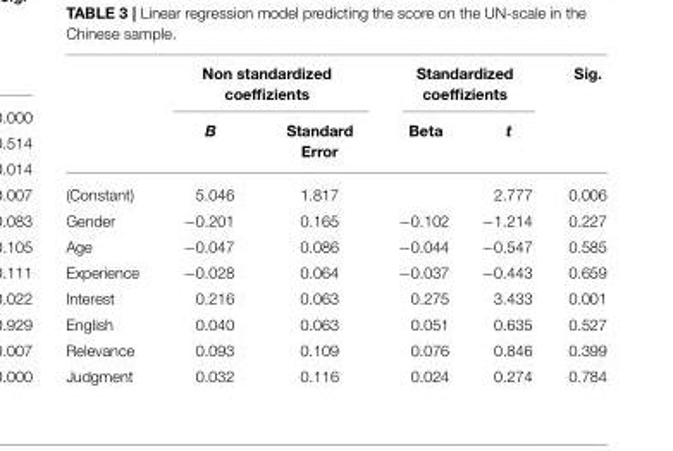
<table><thead><tr><td rowspan="2"></td><td colspan="2">Non standardized coeffizients</td><td colspan="2">Standardized coeffizients</td><td rowspan="2">Sig.</td></tr><tr><td>B</td><td>Standard Error</td><td>Beta</td><td>t</td></tr></thead><tbody><tr><td>(Constant)</td><td>5.046</td><td>1.817</td><td></td><td>2.777</td><td>0.006</td></tr><tr><td>Gender</td><td>−0.201</td><td>0.165</td><td>−0.102</td><td>−1.214</td><td>0.227</td></tr><tr><td>Age</td><td>−0.047</td><td>0.086</td><td>−0.044</td><td>−0.547</td><td>0.585</td></tr><tr><td>Experience</td><td>−0.028</td><td>0.064</td><td>−0.037</td><td>−0.443</td><td>0.659</td></tr><tr><td>Interest</td><td>0.216</td><td>0.063</td><td>0.275</td><td>3.433</td><td>0.001</td></tr><tr><td>English</td><td>0.040</td><td>0.063</td><td>0.051</td><td>0.635</td><td>0.527</td></tr><tr><td>Relevance</td><td>0.093</td><td>0.109</td><td>0.076</td><td>0.846</td><td>0.399</td></tr><tr><td>Judgment</td><td>0.032</td><td>0.116</td><td>0.024</td><td>0.274</td><td>0.784</td></tr></tbody></table>